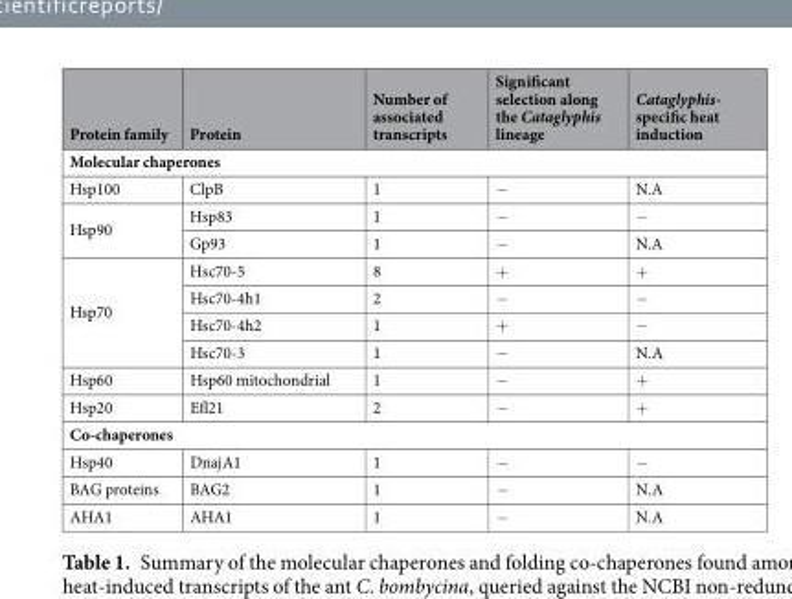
<table><thead><tr><td>Protein family</td><td>Protein</td><td>Number of associated transcripts</td><td>Significant selection along the Cataglyphis lineage</td><td>Cataglyphis- specific heat induction</td></tr></thead><tbody><tr><td colspan="5">Molecular chaperones</td></tr><tr><td>Hsp100</td><td>ClpB</td><td>1</td><td>−</td><td>N.A</td></tr><tr><td rowspan="2">Hsp90</td><td>Hsp83</td><td>1</td><td>−</td><td>−</td></tr><tr><td>Gp93</td><td>1</td><td>−</td><td>N.A</td></tr><tr><td rowspan="4">Hsp70</td><td>Hsc70-5</td><td>8</td><td>+</td><td>+</td></tr><tr><td>Hsc70-4h1</td><td>2</td><td>−</td><td>−</td></tr><tr><td>Hsc70-4h2</td><td>1</td><td>+</td><td>−</td></tr><tr><td>Hsc70-3</td><td>1</td><td>−</td><td>N.A</td></tr><tr><td>Hsp60</td><td>Hsp60 mitochondrial</td><td>1</td><td>−</td><td>+</td></tr><tr><td>Hsp20</td><td>Efl21</td><td>2</td><td>−</td><td>+</td></tr><tr><td colspan="5">Co-chaperones</td></tr><tr><td>Hsp40</td><td>DnajA1</td><td>1</td><td>−</td><td>−</td></tr><tr><td>BAG proteins</td><td>BAG2</td><td>1</td><td>−</td><td>N.A</td></tr><tr><td>AHA1</td><td>AHA1</td><td>1</td><td>−</td><td>N.A</td></tr></tbody></table>